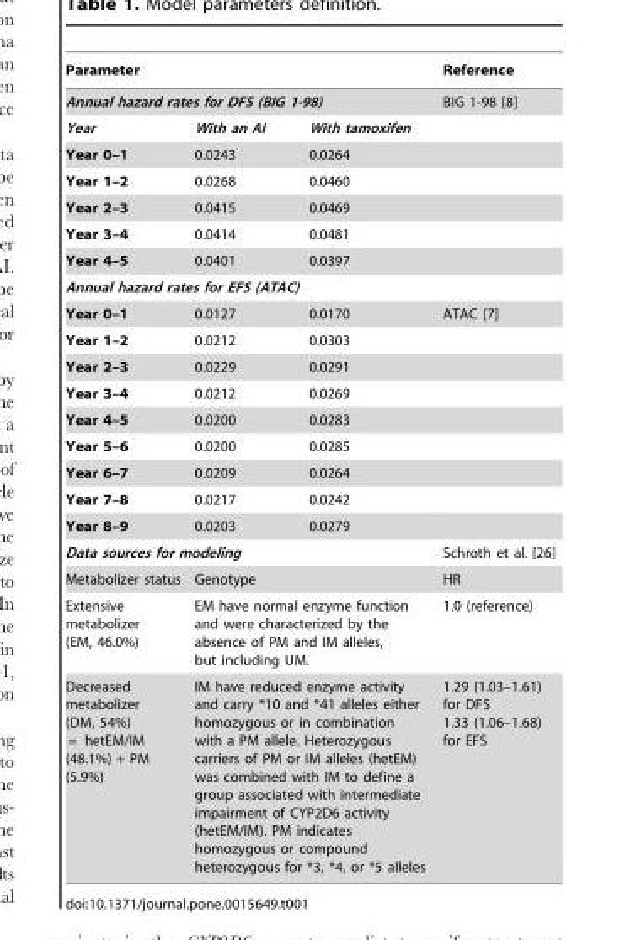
<table><thead><tr><td rowspan="2" colspan="3">Parameter Annual hazard rates for DFS (BIG 1-98)</td><td rowspan="3">Reference BIG 1-98 [8]</td></tr><tr></tr><tr><td>Year</td><td>With an AI</td><td>With tamoxifen</td></tr></thead><tbody><tr><td>Year 0–1</td><td>0.0243</td><td>0.0264</td><td></td></tr><tr><td>Year 1–2</td><td>0.0268</td><td>0.0460</td><td></td></tr><tr><td>Year 2–3</td><td>0.0415</td><td>0.0469</td><td></td></tr><tr><td>Year 3–4</td><td>0.0414</td><td>0.0481</td><td></td></tr><tr><td>Year 4–5</td><td>0.0401</td><td>0.0397</td><td></td></tr><tr><td colspan="4">Annual hazard rates for EFS (ATAC)</td></tr><tr><td>Year 0–1</td><td>0.0127</td><td>0.0170</td><td>ATAC [7]</td></tr><tr><td>Year 1–2</td><td>0.0212</td><td>0.0303</td><td></td></tr><tr><td>Year 2–3</td><td>0.0229</td><td>0.0291</td><td></td></tr><tr><td>Year 3–4</td><td>0.0212</td><td>0.0269</td><td></td></tr><tr><td>Year 4–5</td><td>0.0200</td><td>0.0283</td><td></td></tr><tr><td>Year 5–6</td><td>0.0200</td><td>0.0285</td><td></td></tr><tr><td>Year 6–7</td><td>0.0209</td><td>0.0264</td><td></td></tr><tr><td>Year 7–8</td><td>0.0217</td><td>0.0242</td><td></td></tr><tr><td>Year 8–9</td><td>0.0203</td><td>0.0279</td><td></td></tr><tr><td colspan="3">Data sources for modeling</td><td>Schroth et al. [26]</td></tr><tr><td>Metabolizer status</td><td colspan="2">Genotype</td><td>HR</td></tr><tr><td>Extensive metabolizer (EM, 46.0%)</td><td colspan="2">EM have normal enzyme function and were characterized by the absence of PM and IM alleles, but including UM.</td><td>1.0 (reference)</td></tr><tr><td>Decreased metabolizer (DM, 54%) = hetEM/IM (48.1%) + PM (5.9%)</td><td colspan="2">IM have reduced enzyme activity and carry *10 and *41 alleles either homozygous or in combination with a PM allele. Heterozygous carriers of PM or IM alleles (hetEM) was combined with IM to define a group associated with intermediate impairment of CYP2D6 activity (hetEM/IM). PM indicates homozygous or compound heterozygous for *3, *4, or *5 alleles</td><td>1.29 (1.03–1.61) for DFS 1.33 (1.06–1.68) for EFS</td></tr></tbody></table>